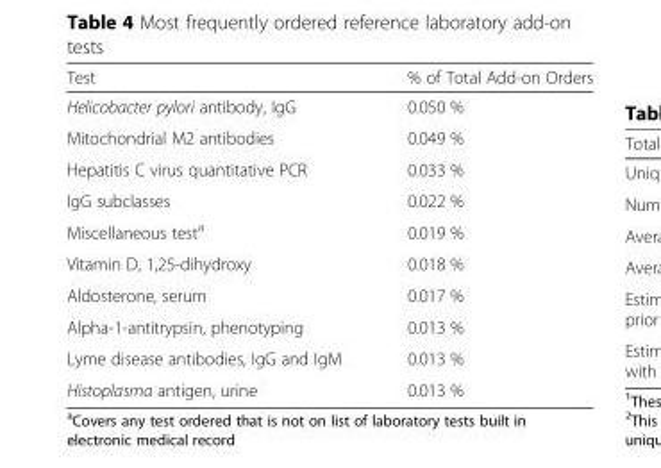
<table><thead><tr><td>Test</td><td>% of Total Add-on Orders</td></tr></thead><tbody><tr><td>Helicobacter pylori antibody, IgG</td><td>0.050 %</td></tr><tr><td>Mitochondrial M2 antibodies</td><td>0.049 %</td></tr><tr><td>Hepatitis C virus quantitative PCR</td><td>0.033 %</td></tr><tr><td>IgG subclasses</td><td>0.022 %</td></tr><tr><td>Miscellaneous test<sup>a</sup></td><td>0.019 %</td></tr><tr><td>Vitamin D, 1,25-dihydroxy</td><td>0.018 %</td></tr><tr><td>Aldosterone, serum</td><td>0.017 %</td></tr><tr><td>Alpha-1-antitrypsin, phenotyping</td><td>0.013 %</td></tr><tr><td>Lyme disease antibodies, IgG and IgM</td><td>0.013 %</td></tr><tr><td>Histoplasma antigen, urine</td><td>0.013 %</td></tr></tbody></table>